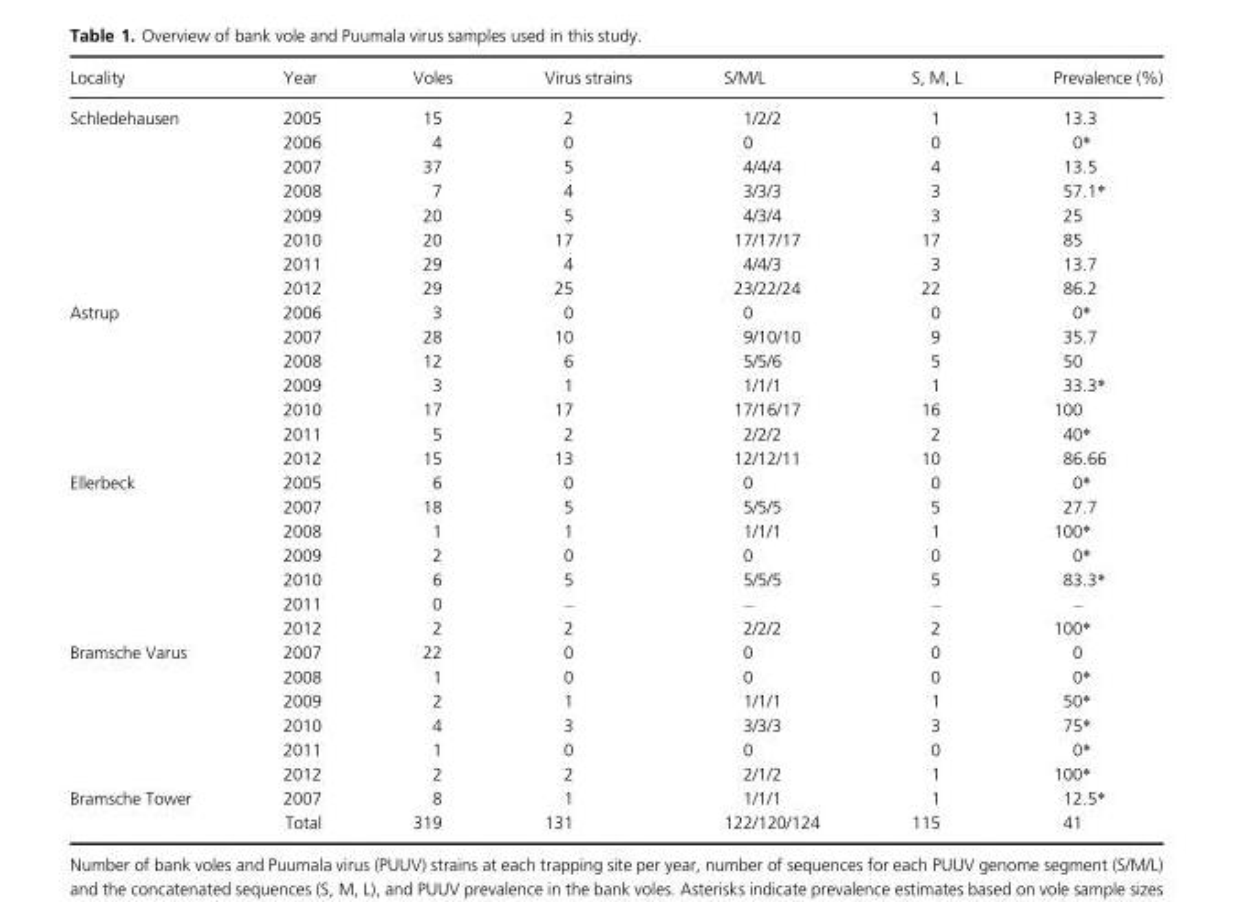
<table><thead><tr><td>Locality</td><td>Year</td><td>Voles</td><td>Virus strains</td><td>S/M/L</td><td>S, M, L</td><td>Prevalence (%)</td></tr></thead><tbody><tr><td rowspan="8">Schledehausen</td><td>2005</td><td>15</td><td>2</td><td>1/2/2</td><td>1</td><td>13.3</td></tr><tr><td>2006</td><td>4</td><td>0</td><td>0</td><td>0</td><td>0*</td></tr><tr><td>2007</td><td>37</td><td>5</td><td>4/4/4</td><td>4</td><td>13.5</td></tr><tr><td>2008</td><td>7</td><td>4</td><td>3/3/3</td><td>3</td><td>57.1*</td></tr><tr><td>2009</td><td>20</td><td>5</td><td>4/3/4</td><td>3</td><td>25</td></tr><tr><td>2010</td><td>20</td><td>17</td><td>17/17/17</td><td>17</td><td>85</td></tr><tr><td>2011</td><td>29</td><td>4</td><td>4/4/3</td><td>3</td><td>13.7</td></tr><tr><td>2012</td><td>29</td><td>25</td><td>23/22/24</td><td>22</td><td>86.2</td></tr><tr><td rowspan="7">Astrup</td><td>2006</td><td>3</td><td>0</td><td>0</td><td>0</td><td>0*</td></tr><tr><td>2007</td><td>28</td><td>10</td><td>9/10/10</td><td>9</td><td>35.7</td></tr><tr><td>2008</td><td>12</td><td>6</td><td>5/5/6</td><td>5</td><td>50</td></tr><tr><td>2009</td><td>3</td><td>1</td><td>1/1/1</td><td>1</td><td>33.3*</td></tr><tr><td>2010</td><td>17</td><td>17</td><td>17/16/17</td><td>16</td><td>100</td></tr><tr><td>2011</td><td>5</td><td>2</td><td>2/2/2</td><td>2</td><td>40*</td></tr><tr><td>2012</td><td>15</td><td>13</td><td>12/12/11</td><td>10</td><td>86.66</td></tr><tr><td rowspan="7">Ellerbeck</td><td>2005</td><td>6</td><td>0</td><td>0</td><td>0</td><td>0*</td></tr><tr><td>2007</td><td>18</td><td>5</td><td>5/5/5</td><td>5</td><td>27.7</td></tr><tr><td>2008</td><td>1</td><td>1</td><td>1/1/1</td><td>1</td><td>100*</td></tr><tr><td>2009</td><td>2</td><td>0</td><td>0</td><td>0</td><td>0*</td></tr><tr><td>2010</td><td>6</td><td>5</td><td>5/5/5</td><td>5</td><td>83.3*</td></tr><tr><td>2011</td><td>0</td><td>–</td><td>–</td><td>–</td><td>–</td></tr><tr><td>2012</td><td>2</td><td>2</td><td>2/2/2</td><td>2</td><td>100*</td></tr><tr><td rowspan="6">Bramsche Varus</td><td>2007</td><td>22</td><td>0</td><td>0</td><td>0</td><td>0</td></tr><tr><td>2008</td><td>1</td><td>0</td><td>0</td><td>0</td><td>0*</td></tr><tr><td>2009</td><td>2</td><td>1</td><td>1/1/1</td><td>1</td><td>50*</td></tr><tr><td>2010</td><td>4</td><td>3</td><td>3/3/3</td><td>3</td><td>75*</td></tr><tr><td>2011</td><td>1</td><td>0</td><td>0</td><td>0</td><td>0*</td></tr><tr><td>2012</td><td>2</td><td>2</td><td>2/1/2</td><td>1</td><td>100*</td></tr><tr><td rowspan="2">Bramsche Tower</td><td>2007</td><td>8</td><td>1</td><td>1/1/1</td><td>1</td><td>12.5*</td></tr><tr><td>Total</td><td>319</td><td>131</td><td>122/120/124</td><td>115</td><td>41</td></tr></tbody></table>